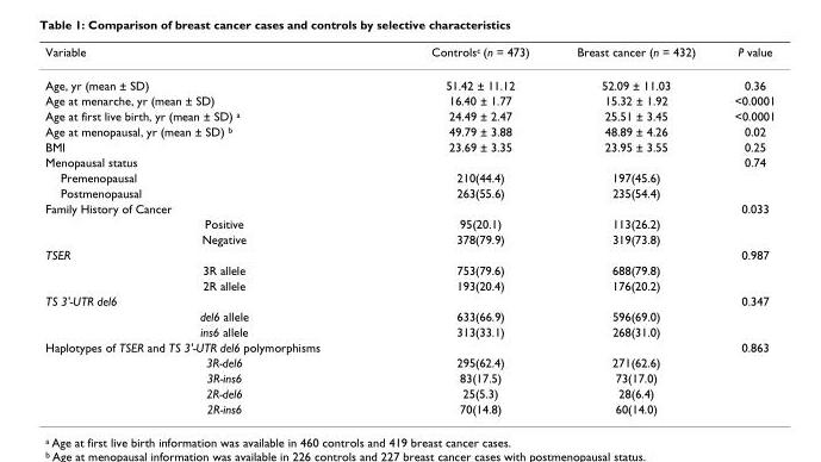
<table><thead><tr><td>Variable</td><td>Controlsc (n = 473)</td><td>Breast cancer (n = 432)</td><td>P value</td></tr></thead><tbody><tr><td>Age, yr (mean ± SD)</td><td>51.42 ± 11.12</td><td>52.09 ± 11.03</td><td>0.36</td></tr><tr><td>Age at menarche, yr (mean ± SD)</td><td>16.40 ± 1.77</td><td>15.32 ± 1.92</td><td>&lt;0.0001</td></tr><tr><td>Age at first live birth, yr (mean ± SD) a</td><td>24.49 ± 2.47</td><td>25.51 ± 3.45</td><td>&lt;0.0001</td></tr><tr><td>Age at menopausal, yr (mean ± SD) b</td><td>49.79 ± 3.88</td><td>48.89 ± 4.26</td><td>0.02</td></tr><tr><td>BMI</td><td>23.69 ± 3.35</td><td>23.95 ± 3.55</td><td>0.25</td></tr><tr><td>Menopausal status</td><td></td><td></td><td>0.74</td></tr><tr><td>Premenopausal</td><td>210(44.4)</td><td>197(45.6)</td><td></td></tr><tr><td>Postmenopausal</td><td>263(55.6)</td><td>235(54.4)</td><td></td></tr><tr><td>Family History of Cancer</td><td></td><td></td><td>0.033</td></tr><tr><td>Positive</td><td>95(20.1)</td><td>113(26.2)</td><td></td></tr><tr><td>Negative</td><td>378(79.9)</td><td>319(73.8)</td><td></td></tr><tr><td>TSER</td><td></td><td></td><td>0.987</td></tr><tr><td>3R allele</td><td>753(79.6)</td><td>688(79.8)</td><td></td></tr><tr><td>2R allele</td><td>193(20.4)</td><td>176(20.2)</td><td></td></tr><tr><td>TS 3&#x27;-UTR del6</td><td></td><td></td><td>0.347</td></tr><tr><td>del6 allele</td><td>633(66.9)</td><td>596(69.0)</td><td></td></tr><tr><td>ins6 allele</td><td>313(33.1)</td><td>268(31.0)</td><td></td></tr><tr><td>Haplotypes of TSER and TS 3&#x27;-UTR del6 polymorphisms</td><td></td><td></td><td>0.863</td></tr><tr><td>3R-del6</td><td>295(62.4)</td><td>271(62.6)</td><td></td></tr><tr><td>3R-ins6</td><td>83(17.5)</td><td>73(17.0)</td><td></td></tr><tr><td>2R-del6</td><td>25(5.3)</td><td>28(6.4)</td><td></td></tr><tr><td>2R-ins6</td><td>70(14.8)</td><td>60(14.0)</td><td></td></tr></tbody></table>